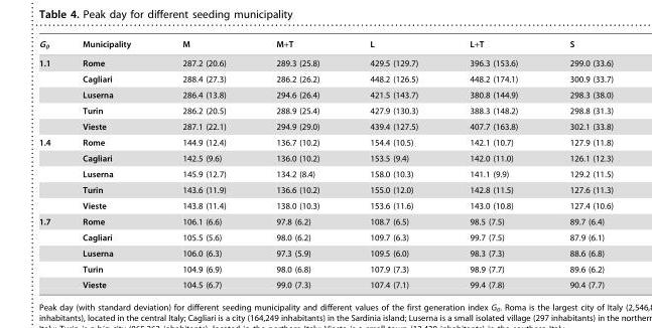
<table><thead><tr><td>G<sub>0</sub></td><td>Municipality</td><td>M</td><td>M+T</td><td>L</td><td>L+T</td><td>S</td></tr></thead><tbody><tr><td rowspan="5">1.1</td><td>Rome</td><td>287.2 (20.6)</td><td>289.3 (25.8)</td><td>429.5 (129.7)</td><td>396.3 (153.6)</td><td>299.0 (33.6)</td></tr><tr><td>Cagliari</td><td>288.4 (27.3)</td><td>286.2 (26.2)</td><td>448.2 (126.5)</td><td>448.2 (174.1)</td><td>300.9 (33.7)</td></tr><tr><td>Luserna</td><td>286.4 (13.8)</td><td>294.6 (26.4)</td><td>421.5 (143.7)</td><td>380.8 (144.9)</td><td>298.3 (38.0)</td></tr><tr><td>Turin</td><td>286.2 (20.5)</td><td>288.9 (25.4)</td><td>427.9 (130.3)</td><td>388.3 (148.2)</td><td>298.8 (31.3)</td></tr><tr><td>Vieste</td><td>287.1 (22.1)</td><td>294.9 (29.0)</td><td>439.4 (127.5)</td><td>407.7 (163.8)</td><td>302.1 (33.8)</td></tr><tr><td rowspan="5">1.4</td><td>Rome</td><td>144.9 (12.4)</td><td>136.7 (10.2)</td><td>154.4 (10.5)</td><td>142.1 (10.7)</td><td>127.9 (11.8)</td></tr><tr><td>Cagliari</td><td>142.5 (9.6)</td><td>136.0 (10.2)</td><td>153.5 (9.4)</td><td>142.0 (11.0)</td><td>126.1 (12.3)</td></tr><tr><td>Luserna</td><td>145.9 (12.7)</td><td>134.2 (8.4)</td><td>158.0 (10.3)</td><td>141.1 (9.9)</td><td>129.2 (11.5)</td></tr><tr><td>Turin</td><td>143.6 (11.9)</td><td>136.6 (10.2)</td><td>155.0 (12.0)</td><td>142.8 (11.5)</td><td>127.6 (11.3)</td></tr><tr><td>Vieste</td><td>143.8 (11.4)</td><td>138.0 (10.3)</td><td>153.6 (11.6)</td><td>143.0 (10.8)</td><td>127.4 (10.6)</td></tr><tr><td rowspan="5">1.7</td><td>Rome</td><td>106.1 (6.6)</td><td>97.8 (6.2)</td><td>108.7 (6.5)</td><td>98.5 (7.5)</td><td>89.7 (6.4)</td></tr><tr><td>Cagliari</td><td>105.5 (5.6)</td><td>98.0 (6.2)</td><td>109.7 (6.3)</td><td>99.7 (7.5)</td><td>87.9 (6.1)</td></tr><tr><td>Luserna</td><td>106.0 (6.3)</td><td>97.3 (5.9)</td><td>109.5 (6.0)</td><td>98.3 (7.3)</td><td>88.6 (6.8)</td></tr><tr><td>Turin</td><td>104.9 (6.9)</td><td>98.0 (6.8)</td><td>107.9 (7.3)</td><td>98.9 (7.7)</td><td>89.6 (6.2)</td></tr><tr><td>Vieste</td><td>104.5 (6.7)</td><td>99.0 (7.3)</td><td>107.4 (7.1)</td><td>99.4 (7.8)</td><td>90.4 (7.7)</td></tr></tbody></table>